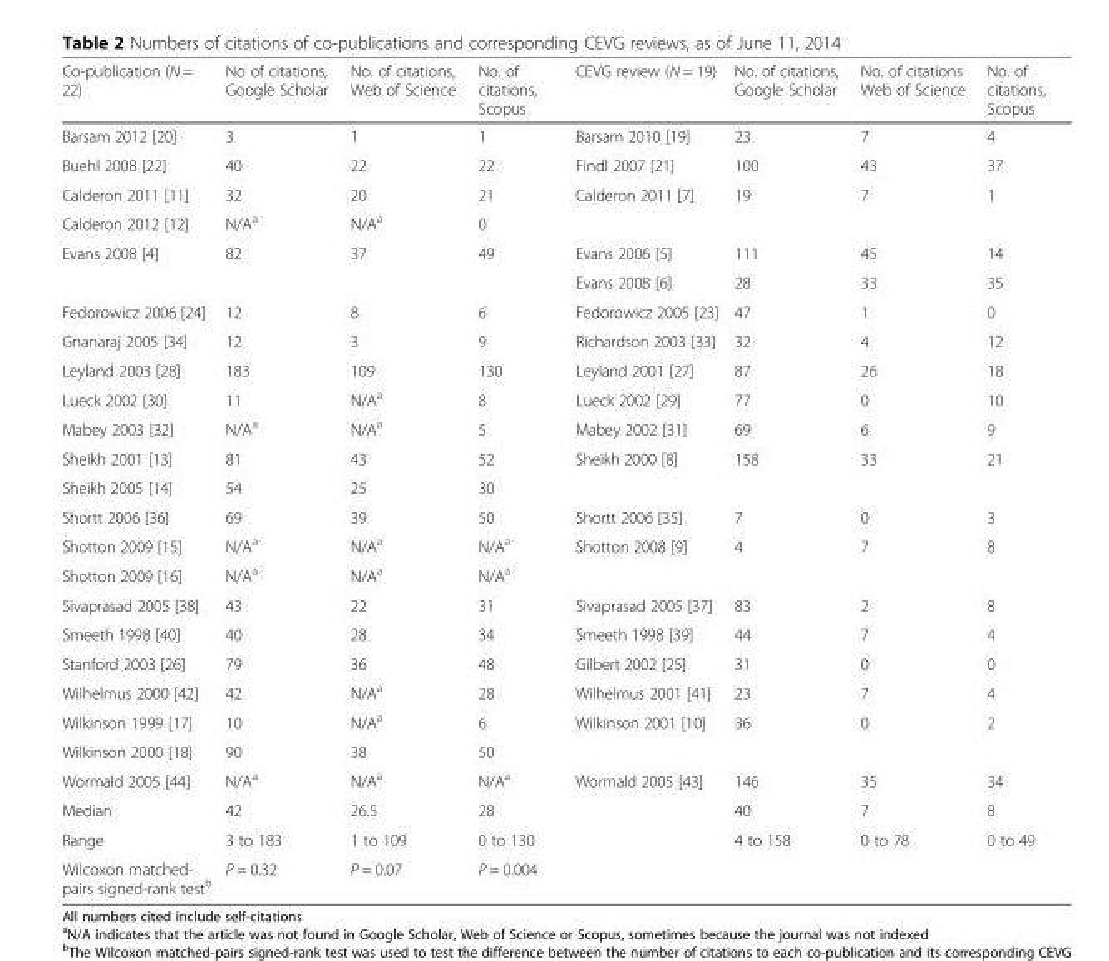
<table><thead><tr><td>Co-publication (N = 22)</td><td>No of citations, Google Scholar</td><td>No. of citations, Web of Science</td><td>No. of citations, Scopus</td><td>CEVG review (N = 19)</td><td>No. of citations, Google Scholar</td><td>No. of citations Web of Science</td><td>No. of citations, Scopus</td></tr></thead><tbody><tr><td>Barsam 2012 [20]</td><td>3</td><td>1</td><td>1</td><td>Barsam 2010 [19]</td><td>23</td><td>7</td><td>4</td></tr><tr><td>Buehl 2008 [22]</td><td>40</td><td>22</td><td>22</td><td>Findl 2007 [21]</td><td>100</td><td>43</td><td>37</td></tr><tr><td>Calderon 2011 [11]</td><td>32</td><td>20</td><td>21</td><td rowspan="2">Calderon 2011 [7]</td><td rowspan="2">19</td><td rowspan="2">7</td><td rowspan="2">1</td></tr><tr><td>Calderon 2012 [12]</td><td>N/A<sup>a</sup></td><td>N/A<sup>a</sup></td><td>0</td></tr><tr><td rowspan="2">Evans 2008 [4]</td><td rowspan="2">82</td><td rowspan="2">37</td><td rowspan="2">49</td><td>Evans 2006 [5]</td><td>111</td><td>45</td><td>14</td></tr><tr><td>Evans 2008 [6]</td><td>28</td><td>33</td><td>35</td></tr><tr><td>Fedorowicz 2006 [24]</td><td>12</td><td>8</td><td>6</td><td>Fedorowicz 2005 [23]</td><td>47</td><td>1</td><td>0</td></tr><tr><td>Gnanaraj 2005 [34]</td><td>12</td><td>3</td><td>9</td><td>Richardson 2003 [33]</td><td>32</td><td>4</td><td>12</td></tr><tr><td>Leyland 2003 [28]</td><td>183</td><td>109</td><td>130</td><td>Leyland 2001 [27]</td><td>87</td><td>26</td><td>18</td></tr><tr><td>Lueck 2002 [30]</td><td>11</td><td>N/A<sup>a</sup></td><td>8</td><td>Lueck 2002 [29]</td><td>77</td><td>0</td><td>10</td></tr><tr><td>Mabey 2003 [32]</td><td>N/A<sup>a</sup></td><td>N/A<sup>a</sup></td><td>5</td><td>Mabey 2002 [31]</td><td>69</td><td>6</td><td>9</td></tr><tr><td>Sheikh 2001 [13]</td><td>81</td><td>43</td><td>52</td><td rowspan="2">Sheikh 2000 [8]</td><td rowspan="2">158</td><td rowspan="2">33</td><td rowspan="2">21</td></tr><tr><td>Sheikh 2005 [14]</td><td>54</td><td>25</td><td>30</td></tr><tr><td>Shortt 2006 [36]</td><td>69</td><td>39</td><td>50</td><td>Shortt 2006 [35]</td><td>7</td><td>0</td><td>3</td></tr><tr><td>Shotton 2009 [15]</td><td>N/A<sup>a</sup></td><td>N/A<sup>a</sup></td><td>N/A<sup>a</sup></td><td rowspan="2">Shotton 2008 [9]</td><td rowspan="2">4</td><td rowspan="2">7</td><td rowspan="2">8</td></tr><tr><td>Shotton 2009 [16]</td><td>N/A<sup>a</sup></td><td>N/A<sup>a</sup></td><td>N/A<sup>a</sup></td></tr><tr><td>Sivaprasad 2005 [38]</td><td>43</td><td>22</td><td>31</td><td>Sivaprasad 2005 [37]</td><td>83</td><td>2</td><td>8</td></tr><tr><td>Smeeth 1998 [40]</td><td>40</td><td>28</td><td>34</td><td>Smeeth 1998 [39]</td><td>44</td><td>7</td><td>4</td></tr><tr><td>Stanford 2003 [26]</td><td>79</td><td>36</td><td>48</td><td>Gilbert 2002 [25]</td><td>31</td><td>0</td><td>0</td></tr><tr><td>Wilhelmus 2000 [42]</td><td>42</td><td>N/A<sup>a</sup></td><td>28</td><td>Wilhelmus 2001 [41]</td><td>23</td><td>7</td><td>4</td></tr><tr><td>Wilkinson 1999 [17]</td><td>10</td><td>N/A<sup>a</sup></td><td>6</td><td rowspan="2">Wilkinson 2001 [10]</td><td rowspan="2">36</td><td rowspan="2">0</td><td rowspan="2">2</td></tr><tr><td>Wilkinson 2000 [18]</td><td>90</td><td>38</td><td>50</td></tr><tr><td>Wormald 2005 [44]</td><td>N/A<sup>a</sup></td><td>N/A<sup>a</sup></td><td>N/A<sup>a</sup></td><td>Wormald 2005 [43]</td><td>146</td><td>35</td><td>34</td></tr><tr><td>Median</td><td>42</td><td>26.5</td><td>28</td><td></td><td>40</td><td>7</td><td>8</td></tr><tr><td>Range</td><td>3 to 183</td><td>1 to 109</td><td>0 to 130</td><td></td><td>4 to 158</td><td>0 to 78</td><td>0 to 49</td></tr><tr><td>Wilcoxon matched- pairs signed-rank test<sup>b</sup></td><td>P = 0.32</td><td>P = 0.07</td><td>P = 0.004</td><td></td><td></td><td></td><td></td></tr></tbody></table>